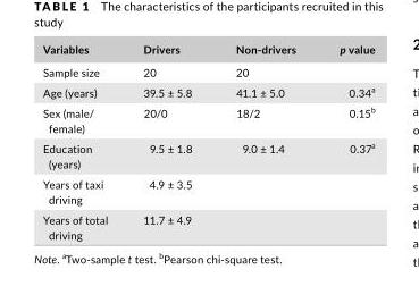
<table><thead><tr><td>Variables</td><td>Drivers</td><td>Non- drivers</td><td>p value</td></tr></thead><tbody><tr><td>Sample size</td><td>20</td><td>20</td><td></td></tr><tr><td>Age (years)</td><td>39.5 ± 5.8</td><td>41.1 ± 5.0</td><td>0.34<sup>a</sup></td></tr><tr><td>Sex (male/ female)</td><td>20/0</td><td>18/2</td><td>0.15<sup>b</sup></td></tr><tr><td>Education (years)</td><td>9.5 ± 1.8</td><td>9.0 ± 1.4</td><td>0.37<sup>a</sup></td></tr><tr><td>Years of taxi driving</td><td>4.9 ± 3.5</td><td></td><td></td></tr><tr><td>Years of total driving</td><td>11.7 ± 4.9</td><td></td><td></td></tr></tbody></table>